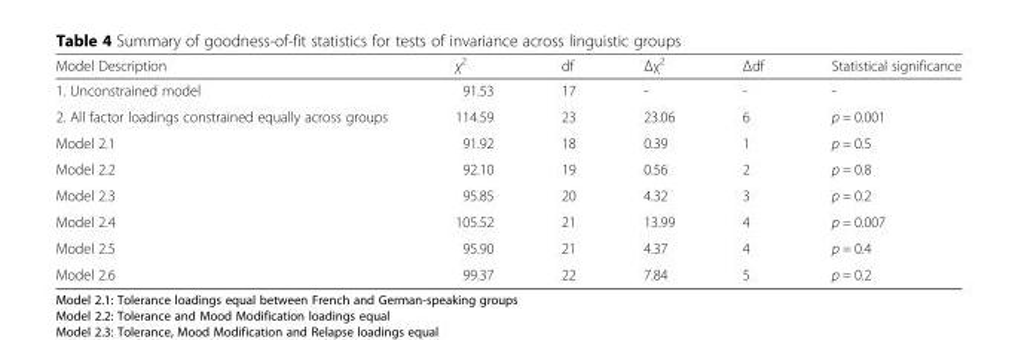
<table><thead><tr><td>Model Description</td><td>χ<sup>2</sup></td><td>df</td><td>Δχ<sup>2</sup></td><td>Δdf</td><td>Statistical significance</td></tr></thead><tbody><tr><td>1. Unconstrained model</td><td>91.53</td><td>17</td><td>-</td><td>-</td><td>-</td></tr><tr><td>2. All factor loadings constrained equally across groups</td><td>114.59</td><td>23</td><td>23.06</td><td>6</td><td>p = 0.001</td></tr><tr><td>Model 2.1</td><td>91.92</td><td>18</td><td>0.39</td><td>1</td><td>p = 0.5</td></tr><tr><td>Model 2.2</td><td>92.10</td><td>19</td><td>0.56</td><td>2</td><td>p = 0.8</td></tr><tr><td>Model 2.3</td><td>95.85</td><td>20</td><td>4.32</td><td>3</td><td>p = 0.2</td></tr><tr><td>Model 2.4</td><td>105.52</td><td>21</td><td>13.99</td><td>4</td><td>p = 0.007</td></tr><tr><td>Model 2.5</td><td>95.90</td><td>21</td><td>4.37</td><td>4</td><td>p = 0.4</td></tr><tr><td>Model 2.6</td><td>99.37</td><td>22</td><td>7.84</td><td>5</td><td>p = 0.2</td></tr></tbody></table>